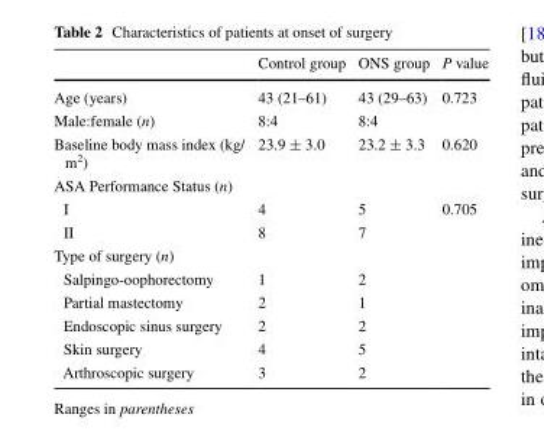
<table><thead><tr><td></td><td>Control group</td><td>ONS group</td><td>P value</td></tr></thead><tbody><tr><td>Age (years)</td><td>43 (21–61)</td><td>43 (29–63)</td><td>0.723</td></tr><tr><td>Male:female (n)</td><td>8:4</td><td>8:4</td><td></td></tr><tr><td>Baseline body mass index (kg/ m<sup>2</sup>)</td><td>23.9 ± 3.0</td><td>23.2 ± 3.3</td><td>0.620</td></tr><tr><td colspan="4">ASA Performance Status (n)</td></tr><tr><td>I</td><td>4</td><td>5</td><td rowspan="2">0.705</td></tr><tr><td>II</td><td>8</td><td>7</td></tr><tr><td colspan="4">Type of surgery (n)</td></tr><tr><td>Salpingo-oophorectomy</td><td>1</td><td>2</td><td></td></tr><tr><td>Partial mastectomy</td><td>2</td><td>1</td><td></td></tr><tr><td>Endoscopic sinus surgery</td><td>2</td><td>2</td><td></td></tr><tr><td>Skin surgery</td><td>4</td><td>5</td><td></td></tr><tr><td>Arthroscopic surgery</td><td>3</td><td>2</td><td></td></tr></tbody></table>